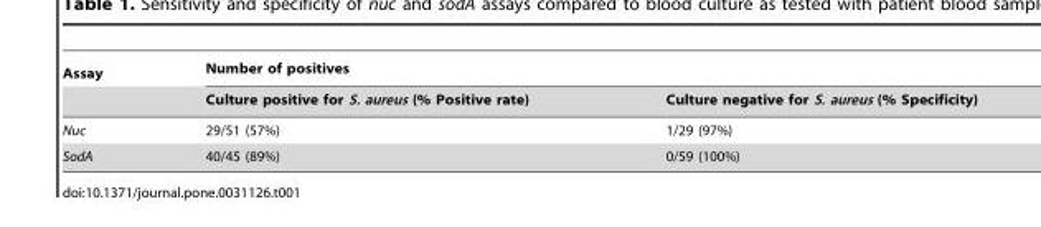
<table><thead><tr><td rowspan="2">Assay</td><td colspan="2">Number of positives</td></tr><tr><td>Culture positive for S. aureus (% Positive rate)</td><td>Culture negative for S. aureus (% Specificity)</td></tr></thead><tbody><tr><td>Nuc</td><td>29/51 (57%)</td><td>1/29 (97%)</td></tr><tr><td>SodA</td><td>40/45 (89%)</td><td>0/59 (100%)</td></tr></tbody></table>